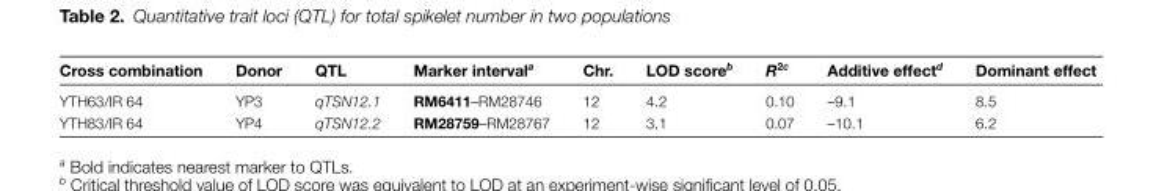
<table><thead><tr><td>Cross combination</td><td>Donor</td><td>QTL</td><td>Marker interval<sup>a</sup></td><td>Chr.</td><td>LOD score<sup>b</sup></td><td>R<sup>2c</sup></td><td>Additive effect<sup>d</sup></td><td>Dominant effect</td></tr></thead><tbody><tr><td>YTH63/IR 64</td><td>YP3</td><td>qTSN12.1</td><td>RM6411–RM28746</td><td>12</td><td>4.2</td><td>0.10</td><td>–9.1</td><td>8.5</td></tr><tr><td>YTH83/IR 64</td><td>YP4</td><td>qTSN12.2</td><td>RM28759–RM28767</td><td>12</td><td>3.1</td><td>0.07</td><td>–10.1</td><td>6.2</td></tr></tbody></table>